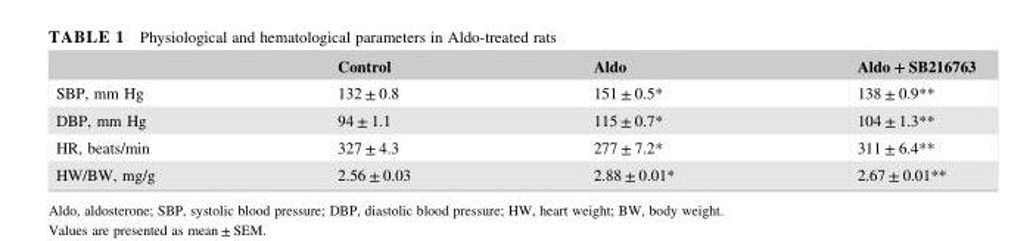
<table><thead><tr><td></td><td>Control</td><td>Aldo</td><td>Aldo + SB216763</td></tr></thead><tbody><tr><td>SBP, mm Hg</td><td>132 ± 0.8</td><td>151 ± 0.5*</td><td>138 ± 0.9**</td></tr><tr><td>DBP, mm Hg</td><td>94 ± 1.1</td><td>115 ± 0.7*</td><td>104 ± 1.3**</td></tr><tr><td>HR, beats/min</td><td>327 ± 4.3</td><td>277 ± 7.2*</td><td>311 ± 6.4**</td></tr><tr><td>HW/BW, mg/g</td><td>2.56 ± 0.03</td><td>2.88 ± 0.01*</td><td>2.67 ± 0.01**</td></tr></tbody></table>